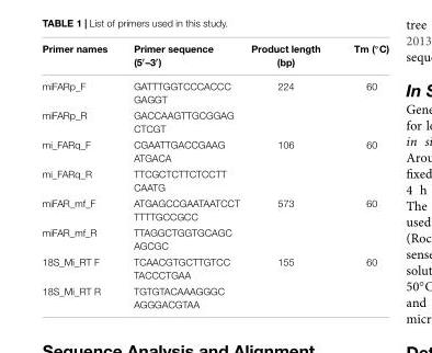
<table><thead><tr><td>Primer names</td><td>Primer sequence (5′–3′)</td><td>Product length (bp)</td><td>Tm (◦C)</td></tr></thead><tbody><tr><td>miFARp_F</td><td>GATTTGGTCCCACCC GAGGT</td><td>224</td><td>60</td></tr><tr><td>miFARp_R</td><td>GACCAAGTTGCGGAG CTCGT</td><td></td><td></td></tr><tr><td>mi_FARq_F</td><td>CGAATTGACCGAAG ATGACA</td><td>106</td><td>60</td></tr><tr><td>mi_FARq_R</td><td>TTCGCTCTTCTCCTT CAATG</td><td></td><td></td></tr><tr><td>miFAR_mf_F</td><td>ATGAGCCGAATAATCCT TTTTGCCGCC</td><td>573</td><td>60</td></tr><tr><td>miFAR_mf_R</td><td>TTAGGCTGGTGCAGC AGCGC</td><td></td><td></td></tr><tr><td>18S_Mi_RT F</td><td>TCAACGTGCTTGTCC TACCCTGAA</td><td>155</td><td>60</td></tr><tr><td>18S_Mi_RT R</td><td>TGTGTACAAAGGGC AGGGACGTAA</td><td></td><td></td></tr></tbody></table>